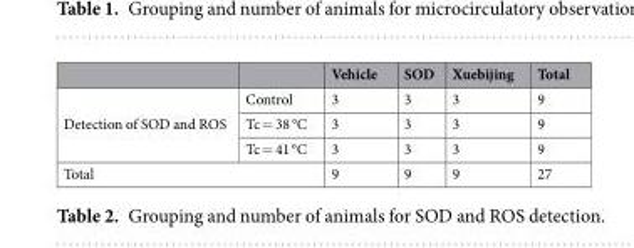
<table><thead><tr><td></td><td></td><td>Vehicle</td><td>SOD</td><td>Xuebijing</td><td>Total</td></tr></thead><tbody><tr><td rowspan="3">Detection of SOD and ROS</td><td>Control</td><td>3</td><td>3</td><td>3</td><td>9</td></tr><tr><td>Tc = 38 °C</td><td>3</td><td>3</td><td>3</td><td>9</td></tr><tr><td>Tc = 41 °C</td><td>3</td><td>3</td><td>3</td><td>9</td></tr><tr><td colspan="2">Total</td><td>9</td><td>9</td><td>9</td><td>27</td></tr></tbody></table>